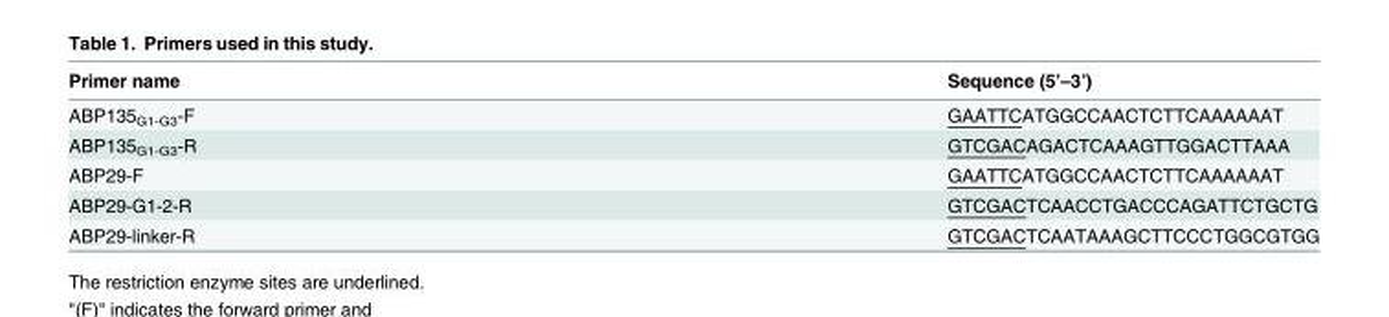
<table><thead><tr><td>Primer name</td><td>Sequence (5’–3’)</td></tr></thead><tbody><tr><td>ABP135<sub>G1-G3</sub>-F</td><td>GAATTCATGGCCAACTCTTCAAAAAAT</td></tr><tr><td>ABP135<sub>G1-G3</sub>-R</td><td>GTCGACAGACTCAAAGTTGGACTTAAA</td></tr><tr><td>ABP29-F</td><td>GAATTCATGGCCAACTCTTCAAAAAAT</td></tr><tr><td>ABP29-G1-2-R</td><td>GTCGACTCAACCTGACCCAGATTCTGCTG</td></tr><tr><td>ABP29-linker-R</td><td>GTCGACTCAATAAAGCTTCCCTGGCGTGG</td></tr></tbody></table>